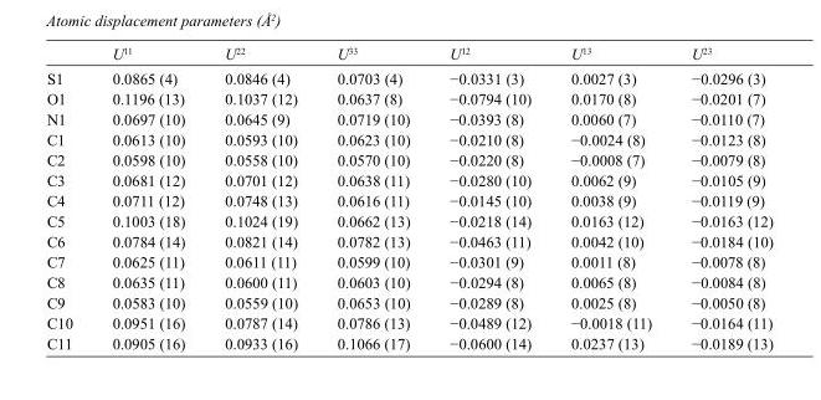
<table><thead><tr><td></td><td>U<sup>11</sup></td><td>U<sup>22</sup></td><td>U<sup>33</sup></td><td>U<sup>12</sup></td><td>U<sup>13</sup></td><td>U<sup>23</sup></td></tr></thead><tbody><tr><td>S1</td><td>0.0865 (4)</td><td>0.0846 (4)</td><td>0.0703 (4)</td><td>−0.0331 (3)</td><td>0.0027 (3)</td><td>−0.0296 (3)</td></tr><tr><td>O1</td><td>0.1196 (13)</td><td>0.1037 (12)</td><td>0.0637 (8)</td><td>−0.0794 (10)</td><td>0.0170 (8)</td><td>−0.0201 (7)</td></tr><tr><td>N1</td><td>0.0697 (10)</td><td>0.0645 (9)</td><td>0.0719 (10)</td><td>−0.0393 (8)</td><td>0.0060 (7)</td><td>−0.0110 (7)</td></tr><tr><td>C1</td><td>0.0613 (10)</td><td>0.0593 (10)</td><td>0.0623 (10)</td><td>−0.0210 (8)</td><td>−0.0024 (8)</td><td>−0.0123 (8)</td></tr><tr><td>C2</td><td>0.0598 (10)</td><td>0.0558 (10)</td><td>0.0570 (10)</td><td>−0.0220 (8)</td><td>−0.0008 (7)</td><td>−0.0079 (8)</td></tr><tr><td>C3</td><td>0.0681 (12)</td><td>0.0701 (12)</td><td>0.0638 (11)</td><td>−0.0280 (10)</td><td>0.0062 (9)</td><td>−0.0105 (9)</td></tr><tr><td>C4</td><td>0.0711 (12)</td><td>0.0748 (13)</td><td>0.0616 (11)</td><td>−0.0145 (10)</td><td>0.0038 (9)</td><td>−0.0119 (9)</td></tr><tr><td>C5</td><td>0.1003 (18)</td><td>0.1024 (19)</td><td>0.0662 (13)</td><td>−0.0218 (14)</td><td>0.0163 (12)</td><td>−0.0163 (12)</td></tr><tr><td>C6</td><td>0.0784 (14)</td><td>0.0821 (14)</td><td>0.0782 (13)</td><td>−0.0463 (11)</td><td>0.0042 (10)</td><td>−0.0184 (10)</td></tr><tr><td>C7</td><td>0.0625 (11)</td><td>0.0611 (11)</td><td>0.0599 (10)</td><td>−0.0301 (9)</td><td>0.0011 (8)</td><td>−0.0078 (8)</td></tr><tr><td>C8</td><td>0.0635 (11)</td><td>0.0600 (11)</td><td>0.0603 (10)</td><td>−0.0294 (8)</td><td>0.0065 (8)</td><td>−0.0084 (8)</td></tr><tr><td>C9</td><td>0.0583 (10)</td><td>0.0559 (10)</td><td>0.0653 (10)</td><td>−0.0289 (8)</td><td>0.0025 (8)</td><td>−0.0050 (8)</td></tr><tr><td>C10</td><td>0.0951 (16)</td><td>0.0787 (14)</td><td>0.0786 (13)</td><td>−0.0489 (12)</td><td>−0.0018 (11)</td><td>−0.0164 (11)</td></tr><tr><td>C11</td><td>0.0905 (16)</td><td>0.0933 (16)</td><td>0.1066 (17)</td><td>−0.0600 (14)</td><td>0.0237 (13)</td><td>−0.0189 (13)</td></tr></tbody></table>